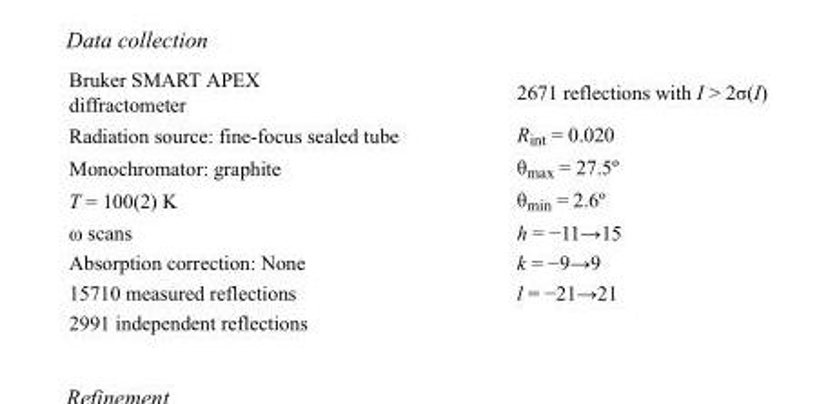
<table><tbody><tr><td>Bruker SMART APEX diffractometer</td><td>2671 reflections with I &gt; 2σ(I)</td></tr><tr><td>Radiation source: fine-focus sealed tube</td><td>R<sub>int</sub> = 0.020</td></tr><tr><td>Monochromator: graphite</td><td>θ<sub>max</sub> = 27.5º</td></tr><tr><td>T = 100(2) K</td><td>θ<sub>min</sub> = 2.6º</td></tr><tr><td>ω scans</td><td>h = −11→15</td></tr><tr><td>Absorption correction: None</td><td>k = −9→9</td></tr><tr><td>15710 measured reflections</td><td>l = −21→21</td></tr><tr><td>2991 independent reflections</td><td></td></tr></tbody></table>